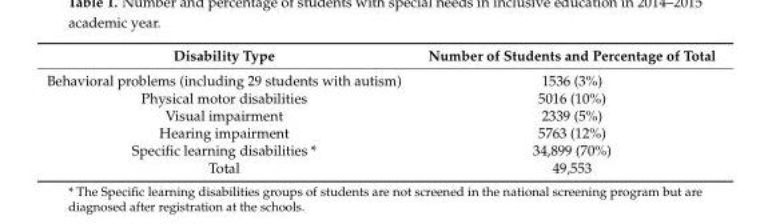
<table><thead><tr><td>Disability Type</td><td>Number of Students and Percentage of Total</td></tr></thead><tbody><tr><td>Behavioral problems (including 29 students with autism)</td><td>1536 (3%)</td></tr><tr><td>Physical motor disabilities</td><td>5016 (10%)</td></tr><tr><td>Visual impairment</td><td>2339 (5%)</td></tr><tr><td>Hearing impairment</td><td>5763 (12%)</td></tr><tr><td>Specific learning disabilities *</td><td>34,899 (70%)</td></tr><tr><td>Total</td><td>49,553</td></tr></tbody></table>